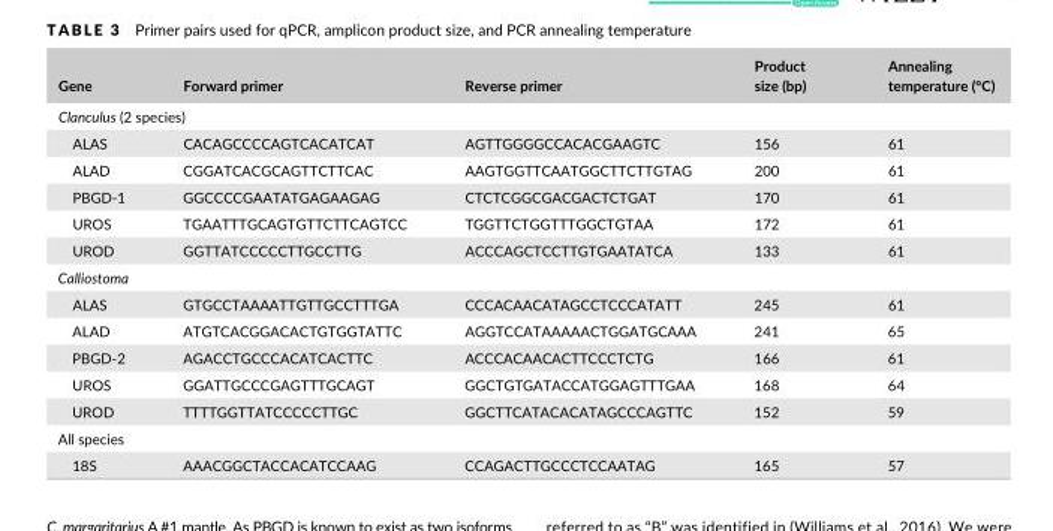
<table><thead><tr><td>Gene</td><td>Forward primer</td><td>Reverse primer</td><td>Product size (bp)</td><td>Annealing temperature (°C)</td></tr></thead><tbody><tr><td colspan="5">Clanculus (2 species)</td></tr><tr><td>ALAS</td><td>CACAGCCCCAGTCACATCAT</td><td>AGTTGGGGCCACACGAAGTC</td><td>156</td><td>61</td></tr><tr><td>ALAD</td><td>CGGATCACGCAGTTCTTCAC</td><td>AAGTGGTTCAATGGCTTCTTGTAG</td><td>200</td><td>61</td></tr><tr><td>PBGD- 1</td><td>GGCCCCGAATATGAGAAGAG</td><td>CTCTCGGCGACGACTCTGAT</td><td>170</td><td>61</td></tr><tr><td>UROS</td><td>TGAATTTGCAGTGTTCTTCAGTCC</td><td>TGGTTCTGGTTTGGCTGTAA</td><td>172</td><td>61</td></tr><tr><td>UROD</td><td>GGTTATCCCCCTTGCCTTG</td><td>ACCCAGCTCCTTGTGAATATCA</td><td>133</td><td>61</td></tr><tr><td colspan="5">Calliostoma</td></tr><tr><td>ALAS</td><td>GTGCCTAAAATTGTTGCCTTTGA</td><td>CCCACAACATAGCCTCCCATATT</td><td>245</td><td>61</td></tr><tr><td>ALAD</td><td>ATGTCACGGACACTGTGGTATTC</td><td>AGGTCCATAAAAACTGGATGCAAA</td><td>241</td><td>65</td></tr><tr><td>PBGD- 2</td><td>AGACCTGCCCACATCACTTC</td><td>ACCCACAACACTTCCCTCTG</td><td>166</td><td>61</td></tr><tr><td>UROS</td><td>GGATTGCCCGAGTTTGCAGT</td><td>GGCTGTGATACCATGGAGTTTGAA</td><td>168</td><td>64</td></tr><tr><td>UROD</td><td>TTTTGGTTATCCCCCTTGC</td><td>GGCTTCATACACATAGCCCAGTTC</td><td>152</td><td>59</td></tr><tr><td colspan="5">All species</td></tr><tr><td>18S</td><td>AAACGGCTACCACATCCAAG</td><td>CCAGACTTGCCCTCCAATAG</td><td>165</td><td>57</td></tr></tbody></table>